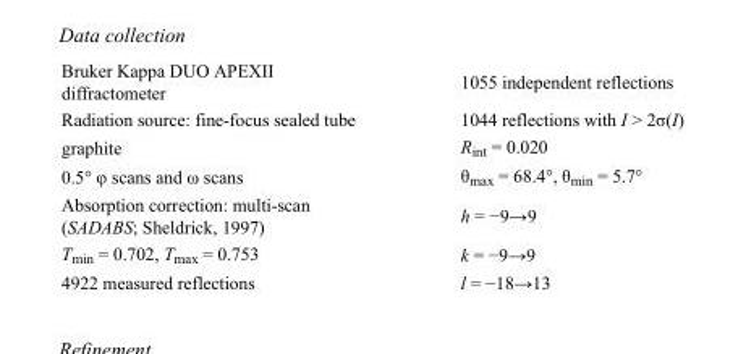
<table><tbody><tr><td>Bruker Kappa DUO APEXII diffractometer</td><td>1055 independent reflections</td></tr><tr><td>Radiation source: fine-focus sealed tube</td><td>1044 reflections with I &gt; 2σ(I)</td></tr><tr><td>graphite</td><td>R<sub>int</sub> = 0.020</td></tr><tr><td>0.5° φ scans and ω scans</td><td>θ<sub>max</sub> = 68.4°, θ<sub>min</sub> = 5.7°</td></tr><tr><td>Absorption correction: multi-scan (SADABS; Sheldrick, 1997)</td><td>h = −9→9</td></tr><tr><td>T<sub>min</sub> = 0.702, T<sub>max</sub> = 0.753</td><td>k = −9→9</td></tr><tr><td>4922 measured reflections</td><td>l = −18→13</td></tr></tbody></table>